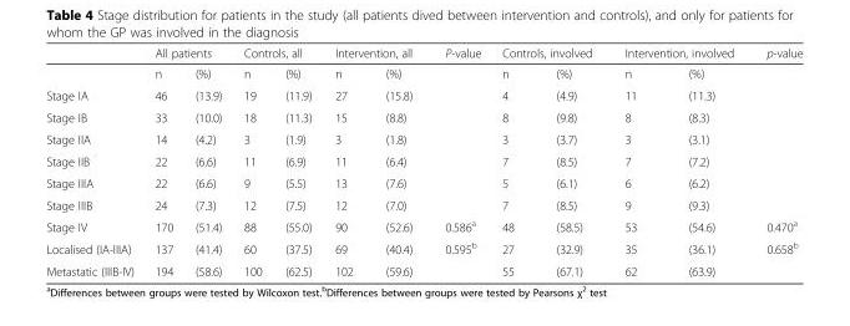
<table><thead><tr><td rowspan="2"></td><td colspan="2">All patients</td><td colspan="2">Controls, all</td><td colspan="2">Intervention, all</td><td rowspan="2">P-value</td><td colspan="2">Controls, involved</td><td colspan="2">Intervention, involved</td><td rowspan="2">p-value</td></tr><tr><td>n</td><td>(%)</td><td>n</td><td>(%)</td><td>n</td><td>(%)</td><td>n</td><td>(%)</td><td>n</td><td>(%)</td></tr></thead><tbody><tr><td>Stage IA</td><td>46</td><td>(13.9)</td><td>19</td><td>(11.9)</td><td>27</td><td>(15.8)</td><td></td><td>4</td><td>(4.9)</td><td>11</td><td>(11.3)</td><td></td></tr><tr><td>Stage IB</td><td>33</td><td>(10.0)</td><td>18</td><td>(11.3)</td><td>15</td><td>(8.8)</td><td></td><td>8</td><td>(9.8)</td><td>8</td><td>(8.3)</td><td></td></tr><tr><td>Stage IIA</td><td>14</td><td>(4.2)</td><td>3</td><td>(1.9)</td><td>3</td><td>(1.8)</td><td></td><td>3</td><td>(3.7)</td><td>3</td><td>(3.1)</td><td></td></tr><tr><td>Stage IIB</td><td>22</td><td>(6.6)</td><td>11</td><td>(6.9)</td><td>11</td><td>(6.4)</td><td></td><td>7</td><td>(8.5)</td><td>7</td><td>(7.2)</td><td></td></tr><tr><td>Stage IIIA</td><td>22</td><td>(6.6)</td><td>9</td><td>(5.5)</td><td>13</td><td>(7.6)</td><td></td><td>5</td><td>(6.1)</td><td>6</td><td>(6.2)</td><td></td></tr><tr><td>Stage IIIB</td><td>24</td><td>(7.3)</td><td>12</td><td>(7.5)</td><td>12</td><td>(7.0)</td><td></td><td>7</td><td>(8.5)</td><td>9</td><td>(9.3)</td><td></td></tr><tr><td>Stage IV</td><td>170</td><td>(51.4)</td><td>88</td><td>(55.0)</td><td>90</td><td>(52.6)</td><td>0.586<sup>a</sup></td><td>48</td><td>(58.5)</td><td>53</td><td>(54.6)</td><td>0.470<sup>a</sup></td></tr><tr><td>Localised (IA-IIIA)</td><td>137</td><td>(41.4)</td><td>60</td><td>(37.5)</td><td>69</td><td>(40.4)</td><td>0.595<sup>b</sup></td><td>27</td><td>(32.9)</td><td>35</td><td>(36.1)</td><td>0.658<sup>b</sup></td></tr><tr><td>Metastatic (IIIB-IV)</td><td>194</td><td>(58.6)</td><td>100</td><td>(62.5)</td><td>102</td><td>(59.6)</td><td></td><td>55</td><td>(67.1)</td><td>62</td><td>(63.9)</td><td></td></tr></tbody></table>